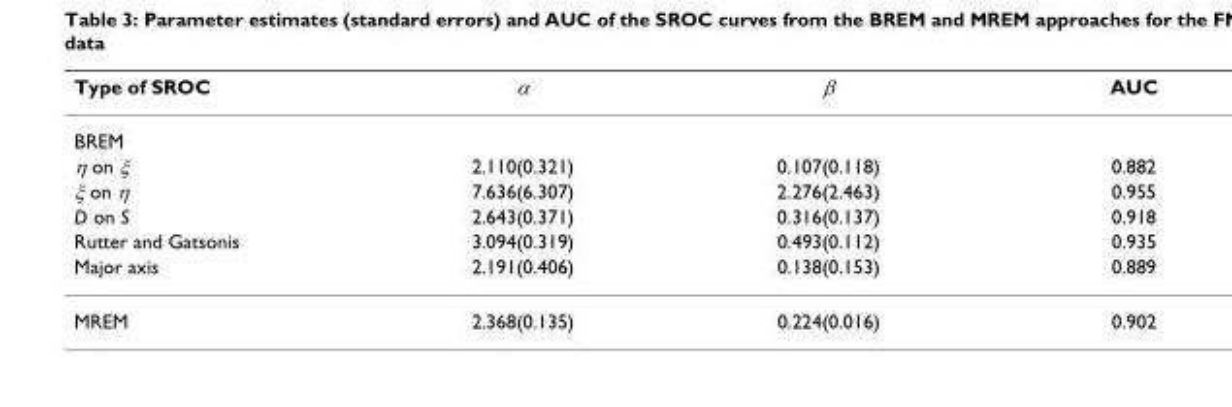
<table><thead><tr><td>Type of SROC</td><td>α</td><td>β</td><td>AUC</td></tr></thead><tbody><tr><td colspan="4">BREM</td></tr><tr><td>η on ξ</td><td>2.110(0.321)</td><td>0.107(0.118)</td><td>0.882</td></tr><tr><td>ξ on η</td><td>7.636(6.307)</td><td>2.276(2.463)</td><td>0.955</td></tr><tr><td>D on S</td><td>2.643(0.371)</td><td>0.316(0.137)</td><td>0.918</td></tr><tr><td>Rutter and Gatsonis</td><td>3.094(0.319)</td><td>0.493(0.112)</td><td>0.935</td></tr><tr><td>Major axis</td><td>2.191(0.406)</td><td>0.138(0.153)</td><td>0.889</td></tr><tr><td>MREM</td><td>2.368(0.135)</td><td>0.224(0.016)</td><td>0.902</td></tr></tbody></table>